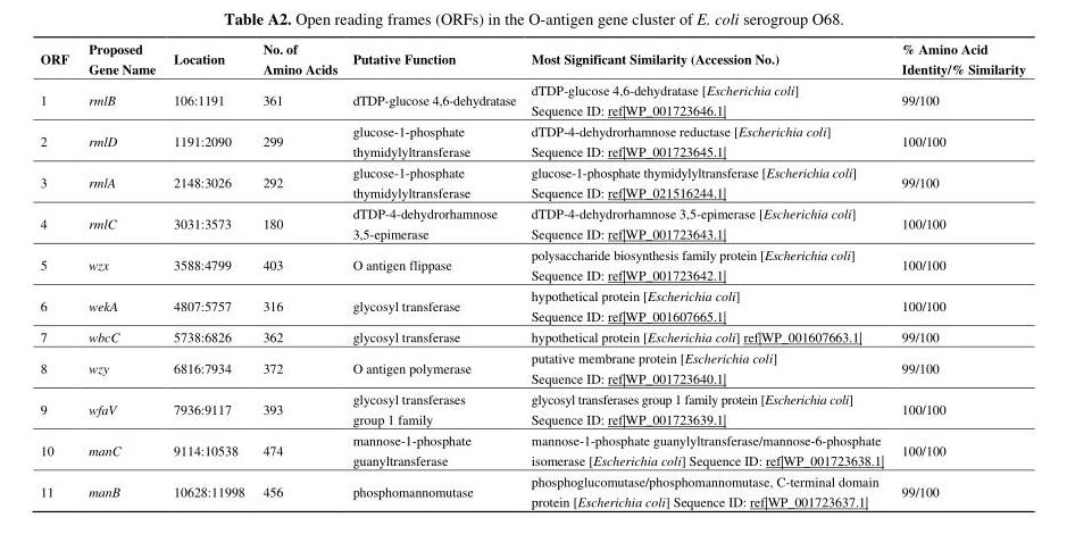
<table><thead><tr><td>ORF</td><td>Proposed Gene Name</td><td>Location</td><td>No. of Amino Acids</td><td>Putative Function</td><td>Most Significant Similarity (Accession No.)</td><td>% Amino Acid Identity/% Similarity</td></tr></thead><tbody><tr><td>1</td><td>rmlB</td><td>106:1191</td><td>361</td><td>dTDP-glucose 4,6-dehydratase</td><td>dTDP-glucose 4,6-dehydratase [Escherichia coli] Sequence ID: ref|WP_001723646.1|</td><td>99/100</td></tr><tr><td>2</td><td>rmlD</td><td>1191:2090</td><td>299</td><td>glucose-1-phosphate thymidylyltransferase</td><td>dTDP-4-dehydrorhamnose reductase [Escherichia coli] Sequence ID: ref|WP_001723645.1|</td><td>100/100</td></tr><tr><td>3</td><td>rmlA</td><td>2148:3026</td><td>292</td><td>glucose-1-phosphate thymidylyltransferase</td><td>glucose-1-phosphate thymidylyltransferase [Escherichia coli] Sequence ID: ref|WP_021516244.1|</td><td>99/100</td></tr><tr><td>4</td><td>rmlC</td><td>3031:3573</td><td>180</td><td>dTDP-4-dehydrorhamnose 3,5-epimerase</td><td>dTDP-4-dehydrorhamnose 3,5-epimerase [Escherichia coli] Sequence ID: ref|WP_001723643.1|</td><td>100/100</td></tr><tr><td>5</td><td>wzx</td><td>3588:4799</td><td>403</td><td>O antigen flippase</td><td>polysaccharide biosynthesis family protein [Escherichia coli] Sequence ID: ref|WP_001723642.1|</td><td>100/100</td></tr><tr><td>6</td><td>wekA</td><td>4807:5757</td><td>316</td><td>glycosyl transferase</td><td>hypothetical protein [Escherichia coli] Sequence ID: ref|WP_001607665.1|</td><td>100/100</td></tr><tr><td>7</td><td>wbcC</td><td>5738:6826</td><td>362</td><td>glycosyl transferase</td><td>hypothetical protein [Escherichia coli] ref|WP_001607663.1|</td><td>99/100</td></tr><tr><td>8</td><td>wzy</td><td>6816:7934</td><td>372</td><td>O antigen polymerase</td><td>putative membrane protein [Escherichia coli] Sequence ID: ref|WP_001723640.1|</td><td>99/100</td></tr><tr><td>9</td><td>wfaV</td><td>7936:9117</td><td>393</td><td>glycosyl transferases group 1 family</td><td>glycosyl transferases group 1 family protein [Escherichia coli] Sequence ID: ref|WP_001723639.1|</td><td>100/100</td></tr><tr><td>10</td><td>manC</td><td>9114:10538</td><td>474</td><td>mannose-1-phosphate guanyltransferase</td><td>mannose-1-phosphate guanylyltransferase/mannose-6-phosphate isomerase [Escherichia coli] Sequence ID: ref|WP_001723638.1|</td><td>100/100</td></tr><tr><td>11</td><td>manB</td><td>10628:11998</td><td>456</td><td>phosphomannomutase</td><td>phosphoglucomutase/phosphomannomutase, C-terminal domain protein [Escherichia coli] Sequence ID: ref|WP_001723637.1|</td><td>99/100</td></tr></tbody></table>